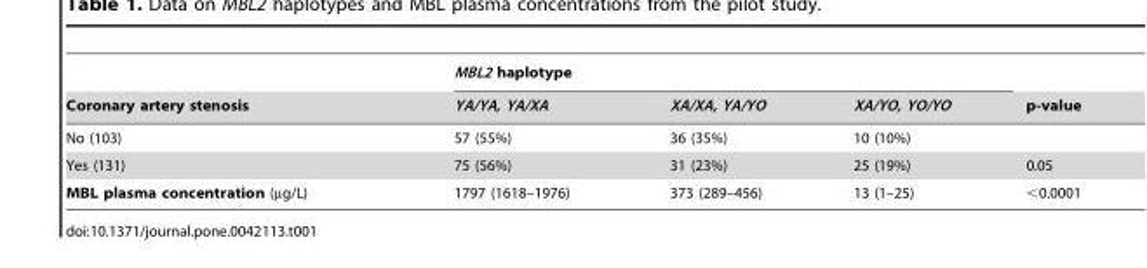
<table><thead><tr><td rowspan="2">Coronary artery stenosis</td><td colspan="3">MBL2 haplotype</td><td rowspan="2">p-value</td></tr><tr><td>YA/YA, YA/XA</td><td>XA/XA, YA/YO</td><td>XA/YO, YO/YO</td></tr></thead><tbody><tr><td>No (103)</td><td>57 (55%)</td><td>36 (35%)</td><td>10 (10%)</td><td></td></tr><tr><td>Yes (131)</td><td>75 (56%)</td><td>31 (23%)</td><td>25 (19%)</td><td>0.05</td></tr><tr><td>MBL plasma concentration (µg/L)</td><td>1797 (1618–1976)</td><td>373 (289–456)</td><td>13 (1–25)</td><td>&lt;0.0001</td></tr></tbody></table>